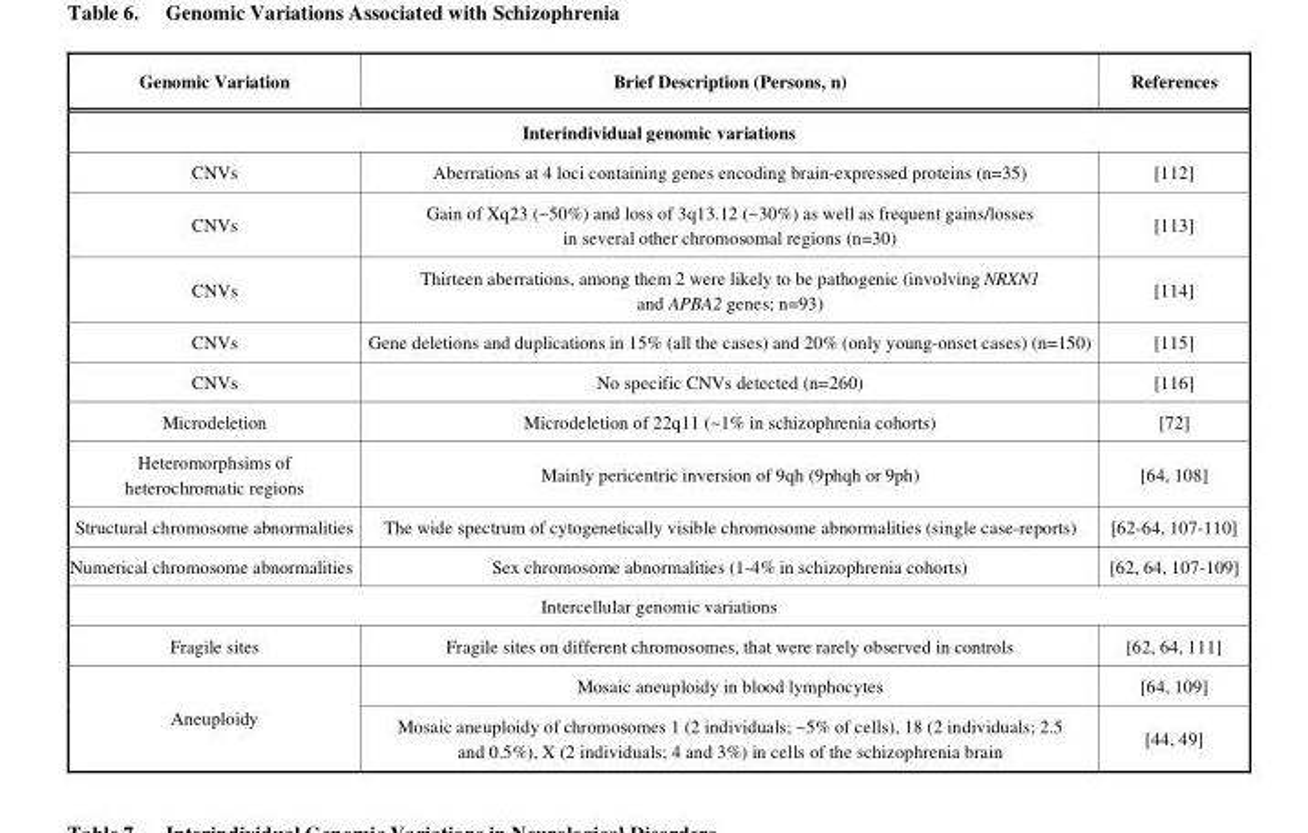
<table><thead><tr><td>Genomic Variation</td><td>Brief Description (Persons, n)</td><td>References</td></tr></thead><tbody><tr><td colspan="3">Interindividual genomic variations</td></tr><tr><td>CNVs</td><td>Aberrations at 4 loci containing genes encoding brain-expressed proteins (n=35)</td><td>[112]</td></tr><tr><td>CNVs</td><td>Gain of Xq23 (~50%) and loss of 3q13.12 (~30%) as well as frequent gains/losses in several other chromosomal regions (n=30)</td><td>[113]</td></tr><tr><td>CNVs</td><td>Thirteen aberrations, among them 2 were likely to be pathogenic (involving NRXN1 and APBA2 genes; n=93)</td><td>[114]</td></tr><tr><td>CNVs</td><td>Gene deletions and duplications in 15% (all the cases) and 20% (only young-onset cases) (n=150)</td><td>[115]</td></tr><tr><td>CNVs</td><td>No specific CNVs detected (n=260)</td><td>[116]</td></tr><tr><td>Microdeletion</td><td>Microdeletion of 22q11 (~1% in schizophrenia cohorts)</td><td>[72]</td></tr><tr><td>Heteromorphsims of heterochromatic regions</td><td>Mainly pericentric inversion of 9qh (9phqh or 9ph)</td><td>[64, 108]</td></tr><tr><td>Structural chromosome abnormalities</td><td>The wide spectrum of cytogenetically visible chromosome abnormalities (single case-reports)</td><td>[62-64, 107-110]</td></tr><tr><td>Numerical chromosome abnormalities</td><td>Sex chromosome abnormalities (1-4% in schizophrenia cohorts)</td><td>[62, 64, 107-109]</td></tr><tr><td colspan="3">Intercellular genomic variations</td></tr><tr><td>Fragile sites</td><td>Fragile sites on different chromosomes, that were rarely observed in controls</td><td>[62, 64, 111]</td></tr><tr><td rowspan="2">Aneuploidy</td><td>Mosaic aneuploidy in blood lymphocytes</td><td>[64, 109]</td></tr><tr><td>Mosaic aneuploidy of chromosomes 1 (2 individuals; ~5% of cells), 18 (2 individuals; 2.5 and 0.5%), X (2 individuals; 4 and 3%) in cells of the schizophrenia brain</td><td>[44, 49]</td></tr></tbody></table>